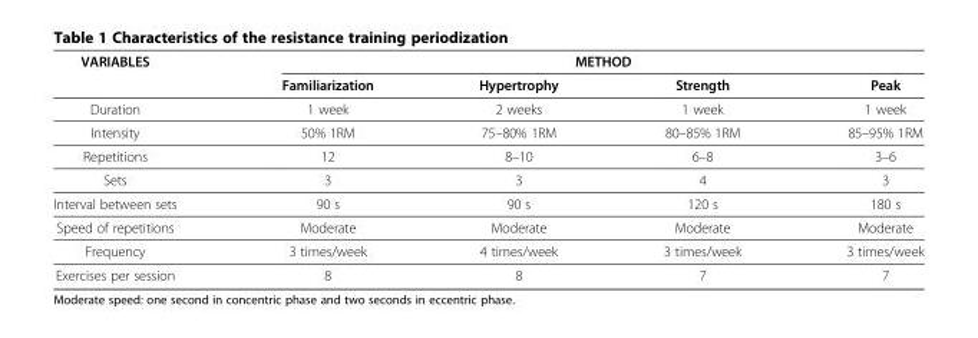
<table><thead><tr><td rowspan="2">VARIABLES</td><td colspan="4">METHOD</td></tr><tr><td>Familiarization</td><td>Hypertrophy</td><td>Strength</td><td>Peak</td></tr></thead><tbody><tr><td>Duration</td><td>1 week</td><td>2 weeks</td><td>1 week</td><td>1 week</td></tr><tr><td>Intensity</td><td>50% 1RM</td><td>75–80% 1RM</td><td>80–85% 1RM</td><td>85–95% 1RM</td></tr><tr><td>Repetitions</td><td>12</td><td>8–10</td><td>6–8</td><td>3–6</td></tr><tr><td>Sets</td><td>3</td><td>3</td><td>4</td><td>3</td></tr><tr><td>Interval between sets</td><td>90 s</td><td>90 s</td><td>120 s</td><td>180 s</td></tr><tr><td>Speed of repetitions</td><td>Moderate</td><td>Moderate</td><td>Moderate</td><td>Moderate</td></tr><tr><td>Frequency</td><td>3 times/week</td><td>4 times/week</td><td>3 times/week</td><td>3 times/week</td></tr><tr><td>Exercises per session</td><td>8</td><td>8</td><td>7</td><td>7</td></tr></tbody></table>